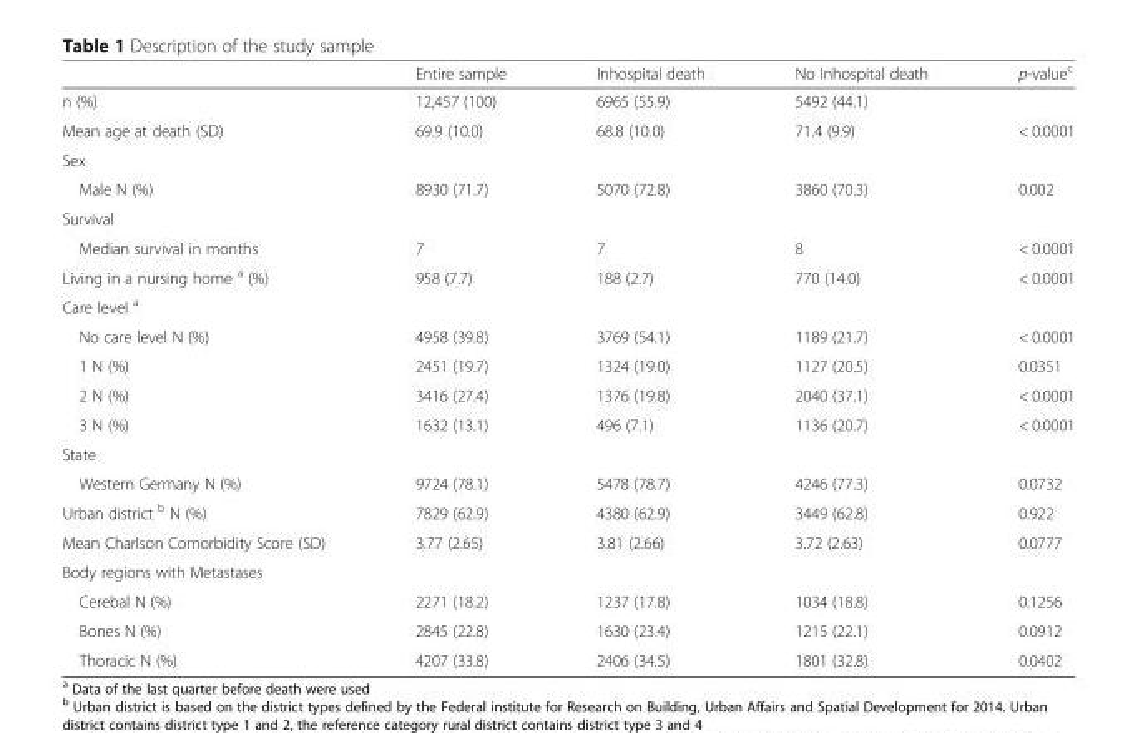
<table><thead><tr><td></td><td>Entire sample</td><td>Inhospital death</td><td>No Inhospital death</td><td>p-value<sup>c</sup></td></tr></thead><tbody><tr><td>n (%)</td><td>12,457 (100)</td><td>6965 (55.9)</td><td>5492 (44.1)</td><td></td></tr><tr><td>Mean age at death (SD)</td><td>69.9 (10.0)</td><td>68.8 (10.0)</td><td>71.4 (9.9)</td><td>&lt; 0.0001</td></tr><tr><td colspan="5">Sex</td></tr><tr><td>Male N (%)</td><td>8930 (71.7)</td><td>5070 (72.8)</td><td>3860 (70.3)</td><td>0.002</td></tr><tr><td colspan="5">Survival</td></tr><tr><td>Median survival in months</td><td>7</td><td>7</td><td>8</td><td>&lt; 0.0001</td></tr><tr><td>Living in a nursing home <sup>a</sup> (%)</td><td>958 (7.7)</td><td>188 (2.7)</td><td>770 (14.0)</td><td>&lt; 0.0001</td></tr><tr><td colspan="5">Care level <sup>a</sup></td></tr><tr><td>No care level N (%)</td><td>4958 (39.8)</td><td>3769 (54.1)</td><td>1189 (21.7)</td><td>&lt; 0.0001</td></tr><tr><td>1 N (%)</td><td>2451 (19.7)</td><td>1324 (19.0)</td><td>1127 (20.5)</td><td>0.0351</td></tr><tr><td>2 N (%)</td><td>3416 (27.4)</td><td>1376 (19.8)</td><td>2040 (37.1)</td><td>&lt; 0.0001</td></tr><tr><td>3 N (%)</td><td>1632 (13.1)</td><td>496 (7.1)</td><td>1136 (20.7)</td><td>&lt; 0.0001</td></tr><tr><td colspan="5">State</td></tr><tr><td>Western Germany N (%)</td><td>9724 (78.1)</td><td>5478 (78.7)</td><td>4246 (77.3)</td><td>0.0732</td></tr><tr><td>Urban district <sup>b</sup> N (%)</td><td>7829 (62.9)</td><td>4380 (62.9)</td><td>3449 (62.8)</td><td>0.922</td></tr><tr><td>Mean Charlson Comorbidity Score (SD)</td><td>3.77 (2.65)</td><td>3.81 (2.66)</td><td>3.72 (2.63)</td><td>0.0777</td></tr><tr><td colspan="5">Body regions with Metastases</td></tr><tr><td>Cerebal N (%)</td><td>2271 (18.2)</td><td>1237 (17.8)</td><td>1034 (18.8)</td><td>0.1256</td></tr><tr><td>Bones N (%)</td><td>2845 (22.8)</td><td>1630 (23.4)</td><td>1215 (22.1)</td><td>0.0912</td></tr><tr><td>Thoracic N (%)</td><td>4207 (33.8)</td><td>2406 (34.5)</td><td>1801 (32.8)</td><td>0.0402</td></tr></tbody></table>